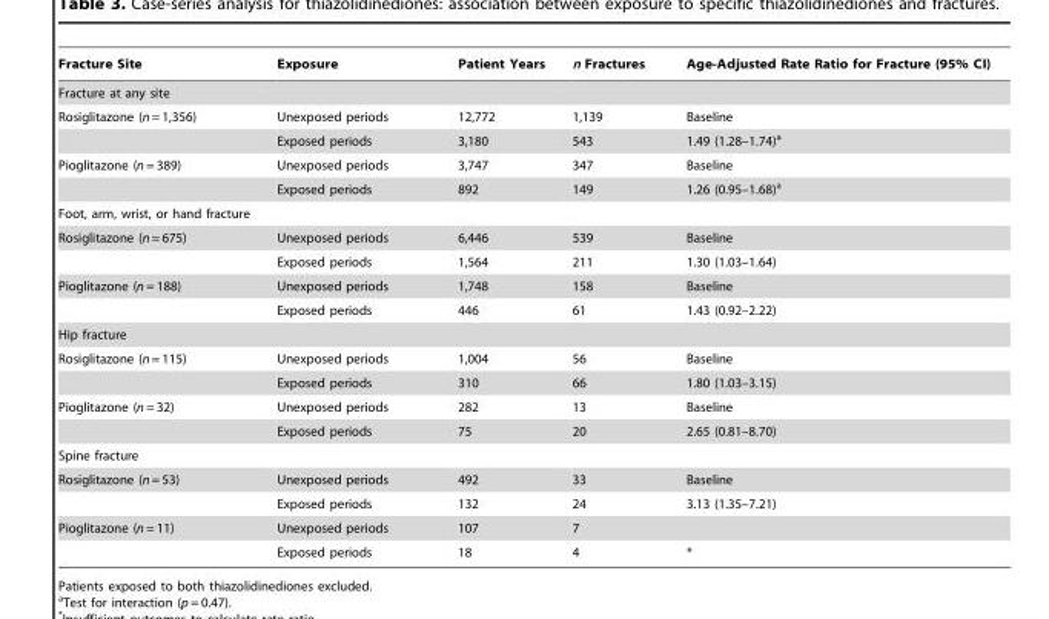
<table><thead><tr><td>Fracture Site</td><td>Exposure</td><td>Patient Years</td><td>n Fractures</td><td>Age-Adjusted Rate Ratio for Fracture (95% CI)</td></tr></thead><tbody><tr><td colspan="5">Fracture at any site</td></tr><tr><td rowspan="2">Rosiglitazone (n = 1,356)</td><td>Unexposed periods</td><td>12,772</td><td>1,139</td><td>Baseline</td></tr><tr><td>Exposed periods</td><td>3,180</td><td>543</td><td>1.49 (1.28–1.74)<sup>a</sup></td></tr><tr><td rowspan="2">Pioglitazone (n = 389)</td><td>Unexposed periods</td><td>3,747</td><td>347</td><td>Baseline</td></tr><tr><td>Exposed periods</td><td>892</td><td>149</td><td>1.26 (0.95–1.68)<sup>a</sup></td></tr><tr><td colspan="5">Foot, arm, wrist, or hand fracture</td></tr><tr><td rowspan="2">Rosiglitazone (n = 675)</td><td>Unexposed periods</td><td>6,446</td><td>539</td><td>Baseline</td></tr><tr><td>Exposed periods</td><td>1,564</td><td>211</td><td>1.30 (1.03–1.64)</td></tr><tr><td rowspan="2">Pioglitazone (n = 188)</td><td>Unexposed periods</td><td>1,748</td><td>158</td><td>Baseline</td></tr><tr><td>Exposed periods</td><td>446</td><td>61</td><td>1.43 (0.92–2.22)</td></tr><tr><td colspan="5">Hip fracture</td></tr><tr><td rowspan="2">Rosiglitazone (n = 115)</td><td>Unexposed periods</td><td>1,004</td><td>56</td><td>Baseline</td></tr><tr><td>Exposed periods</td><td>310</td><td>66</td><td>1.80 (1.03–3.15)</td></tr><tr><td rowspan="2">Pioglitazone (n = 32)</td><td>Unexposed periods</td><td>282</td><td>13</td><td>Baseline</td></tr><tr><td>Exposed periods</td><td>75</td><td>20</td><td>2.65 (0.81–8.70)</td></tr><tr><td colspan="5">Spine fracture</td></tr><tr><td rowspan="2">Rosiglitazone (n = 53)</td><td>Unexposed periods</td><td>492</td><td>33</td><td>Baseline</td></tr><tr><td>Exposed periods</td><td>132</td><td>24</td><td>3.13 (1.35–7.21)</td></tr><tr><td rowspan="2">Pioglitazone (n = 11)</td><td>Unexposed periods</td><td>107</td><td>7</td><td></td></tr><tr><td>Exposed periods</td><td>18</td><td>4</td><td>*</td></tr></tbody></table>